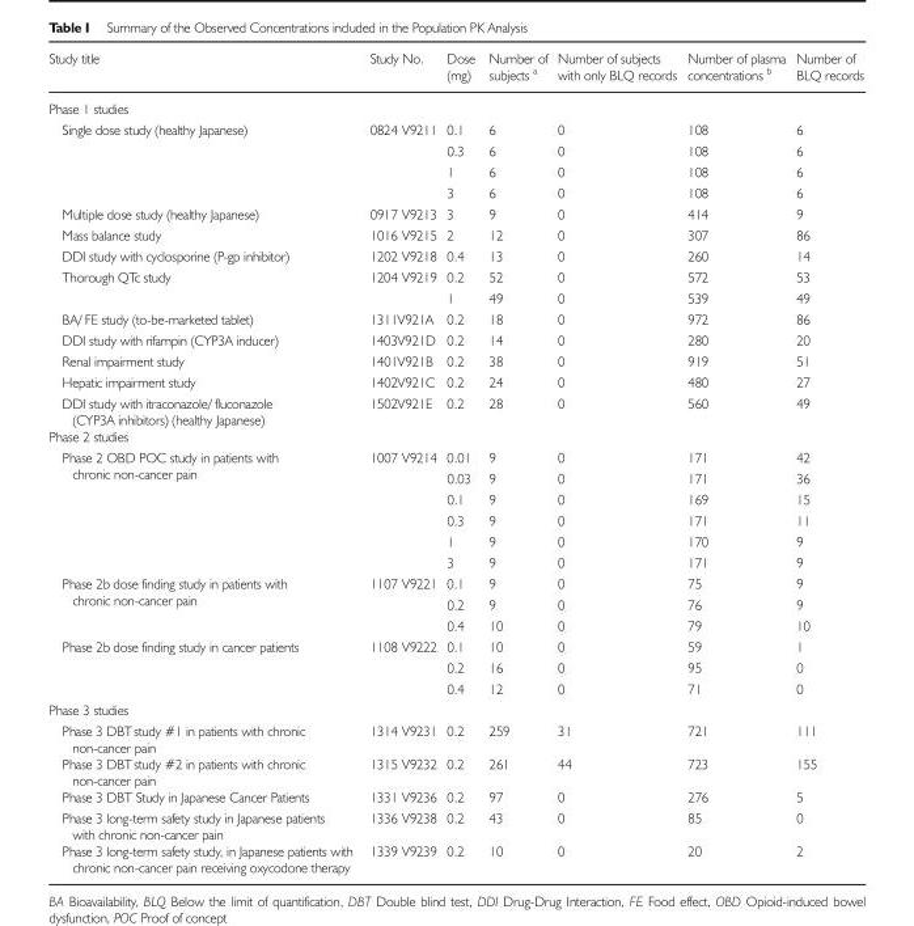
<table><thead><tr><td>Study title</td><td>Study No.</td><td>Dose (mg)</td><td>Number of subjects <sup>a</sup></td><td>Number of subjects with only BLQ records</td><td>Number of plasma concentrations <sup>b</sup></td><td>Number of BLQ records</td></tr></thead><tbody><tr><td colspan="7">Phase 1 studies</td></tr><tr><td rowspan="4">Single dose study (healthy Japanese)</td><td rowspan="4">0824 V9211</td><td>0.1</td><td>6</td><td>0</td><td>108</td><td>6</td></tr><tr><td>0.3</td><td>6</td><td>0</td><td>108</td><td>6</td></tr><tr><td>1</td><td>6</td><td>0</td><td>108</td><td>6</td></tr><tr><td>3</td><td>6</td><td>0</td><td>108</td><td>6</td></tr><tr><td>Multiple dose study (healthy Japanese)</td><td>0917 V9213</td><td>3</td><td>9</td><td>0</td><td>414</td><td>9</td></tr><tr><td>Mass balance study</td><td>1016 V9215</td><td>2</td><td>12</td><td>0</td><td>307</td><td>86</td></tr><tr><td>DDI study with cyclosporine (P-gp inhibitor)</td><td>1202 V9218</td><td>0.4</td><td>13</td><td>0</td><td>260</td><td>14</td></tr><tr><td rowspan="2">Thorough QTc study</td><td rowspan="2">1204 V9219</td><td>0.2</td><td>52</td><td>0</td><td>572</td><td>53</td></tr><tr><td>1</td><td>49</td><td>0</td><td>539</td><td>49</td></tr><tr><td>BA/ FE study (to-be-marketed tablet)</td><td>1311V921A</td><td>0.2</td><td>18</td><td>0</td><td>972</td><td>86</td></tr><tr><td>DDI study with rifampin (CYP3A inducer)</td><td>1403V921D</td><td>0.2</td><td>14</td><td>0</td><td>280</td><td>20</td></tr><tr><td>Renal impairment study</td><td>1401V921B</td><td>0.2</td><td>38</td><td>0</td><td>919</td><td>51</td></tr><tr><td>Hepatic impairment study</td><td>1402V921C</td><td>0.2</td><td>24</td><td>0</td><td>480</td><td>27</td></tr><tr><td>DDI study with itraconazole/ fluconazole (CYP3A inhibitors) (healthy Japanese)</td><td>1502V921E</td><td>0.2</td><td>28</td><td>0</td><td>560</td><td>49</td></tr><tr><td colspan="7">Phase 2 studies</td></tr><tr><td rowspan="6">Phase 2 OBD POC study in patients with chronic non-cancer pain</td><td rowspan="6">1007 V9214</td><td>0.01</td><td>9</td><td>0</td><td>171</td><td>42</td></tr><tr><td>0.03</td><td>9</td><td>0</td><td>171</td><td>36</td></tr><tr><td>0.1</td><td>9</td><td>0</td><td>169</td><td>15</td></tr><tr><td>0.3</td><td>9</td><td>0</td><td>171</td><td>11</td></tr><tr><td>1</td><td>9</td><td>0</td><td>170</td><td>9</td></tr><tr><td>3</td><td>9</td><td>0</td><td>171</td><td>9</td></tr><tr><td rowspan="3">Phase 2b dose finding study in patients with chronic non-cancer pain</td><td rowspan="3">1107 V9221</td><td>0.1</td><td>9</td><td>0</td><td>75</td><td>9</td></tr><tr><td>0.2</td><td>9</td><td>0</td><td>76</td><td>9</td></tr><tr><td>0.4</td><td>10</td><td>0</td><td>79</td><td>10</td></tr><tr><td rowspan="3">Phase 2b dose finding study in cancer patients</td><td rowspan="3">1108 V9222</td><td>0.1</td><td>10</td><td>0</td><td>59</td><td>1</td></tr><tr><td>0.2</td><td>16</td><td>0</td><td>95</td><td>0</td></tr><tr><td>0.4</td><td>12</td><td>0</td><td>71</td><td>0</td></tr><tr><td colspan="7">Phase 3 studies</td></tr><tr><td>Phase 3 DBTstudy #1 in patients with chronic non-cancer pain</td><td>1314 V9231</td><td>0.2</td><td>259</td><td>31</td><td>721</td><td>111</td></tr><tr><td>Phase 3 DBTstudy #2 in patients with chronic non-cancer pain</td><td>1315 V9232</td><td>0.2</td><td>261</td><td>44</td><td>723</td><td>155</td></tr><tr><td>Phase 3 DBT Study in Japanese Cancer Patients</td><td>1331 V9236</td><td>0.2</td><td>97</td><td>0</td><td>276</td><td>5</td></tr><tr><td>Phase 3 long-term safety study in Japanese patients with chronic non-cancer pain</td><td>1336 V9238</td><td>0.2</td><td>43</td><td>0</td><td>85</td><td>0</td></tr><tr><td>Phase 3 long-term safety study, in Japanese patients with chronic non-cancer pain receiving oxycodone therapy</td><td>1339 V9239</td><td>0.2</td><td>10</td><td>0</td><td>20</td><td>2</td></tr></tbody></table>